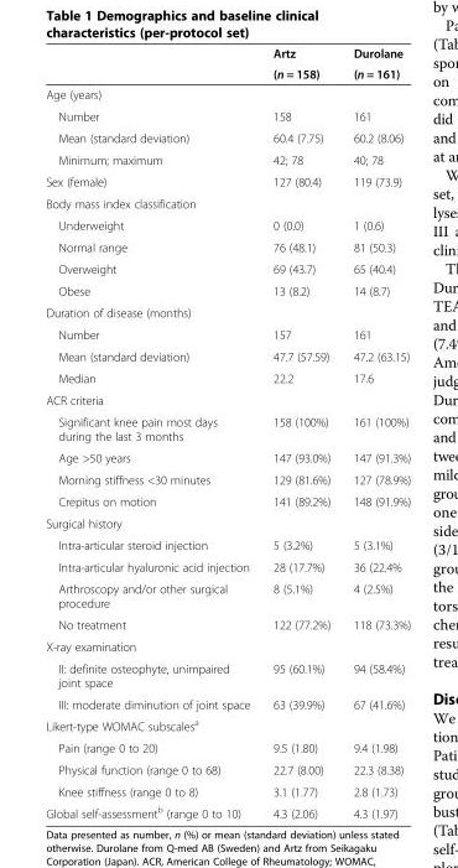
<table><thead><tr><td rowspan="2"></td><td rowspan="2">Artz (n = 158)</td><td rowspan="2">Durolane (n = 161)</td></tr><tr></tr></thead><tbody><tr><td colspan="3">Age (years)</td></tr><tr><td>Number</td><td>158</td><td>161</td></tr><tr><td>Mean (standard deviation)</td><td>60.4 (7.75)</td><td>60.2 (8.06)</td></tr><tr><td>Minimum; maximum</td><td>42; 78</td><td>40; 78</td></tr><tr><td>Sex (female)</td><td>127 (80.4)</td><td>119 (73.9)</td></tr><tr><td colspan="3">Body mass index classification</td></tr><tr><td>Underweight</td><td>0 (0.0)</td><td>1 (0.6)</td></tr><tr><td>Normal range</td><td>76 (48.1)</td><td>81 (50.3)</td></tr><tr><td>Overweight</td><td>69 (43.7)</td><td>65 (40.4)</td></tr><tr><td>Obese</td><td>13 (8.2)</td><td>14 (8.7)</td></tr><tr><td colspan="3">Duration of disease (months)</td></tr><tr><td>Number</td><td>157</td><td>161</td></tr><tr><td>Mean (standard deviation)</td><td>47.7 (57.59)</td><td>47.2 (63.15)</td></tr><tr><td>Median</td><td>22.2</td><td>17.6</td></tr><tr><td colspan="3">ACR criteria</td></tr><tr><td>Significant knee pain most days during the last 3 months</td><td>158 (100%)</td><td>161 (100%)</td></tr><tr><td>Age &gt;50 years</td><td>147 (93.0%)</td><td>147 (91.3%)</td></tr><tr><td>Morning stiffness &lt;30 minutes</td><td>129 (81.6%)</td><td>127 (78.9%)</td></tr><tr><td>Crepitus on motion</td><td>141 (89.2%)</td><td>148 (91.9%)</td></tr><tr><td colspan="3">Surgical history</td></tr><tr><td>Intra-articular steroid injection</td><td>5 (3.2%)</td><td>5 (3.1%)</td></tr><tr><td>Intra-articular hyaluronic acid injection</td><td>28 (17.7%)</td><td>36 (22.4%</td></tr><tr><td>Arthroscopy and/or other surgical procedure</td><td>8 (5.1%)</td><td>4 (2.5%)</td></tr><tr><td>No treatment</td><td>122 (77.2%)</td><td>118 (73.3%)</td></tr><tr><td colspan="3">X-ray examination</td></tr><tr><td>II: definite osteophyte, unimpaired joint space</td><td>95 (60.1%)</td><td>94 (58.4%)</td></tr><tr><td>III: moderate diminution of joint space</td><td>63 (39.9%)</td><td>67 (41.6%)</td></tr><tr><td colspan="3">Likert-type WOMAC subscales<sup>a</sup></td></tr><tr><td>Pain (range 0 to 20)</td><td>9.5 (1.80)</td><td>9.4 (1.98)</td></tr><tr><td>Physical function (range 0 to 68)</td><td>22.7 (8.00)</td><td>22.3 (8.38)</td></tr><tr><td>Knee stiffness (range 0 to 8)</td><td>3.1 (1.77)</td><td>2.8 (1.73)</td></tr><tr><td>Global self-assessment<sup>b</sup> (range 0 to 10)</td><td>4.3 (2.06)</td><td>4.3 (1.97)</td></tr></tbody></table>